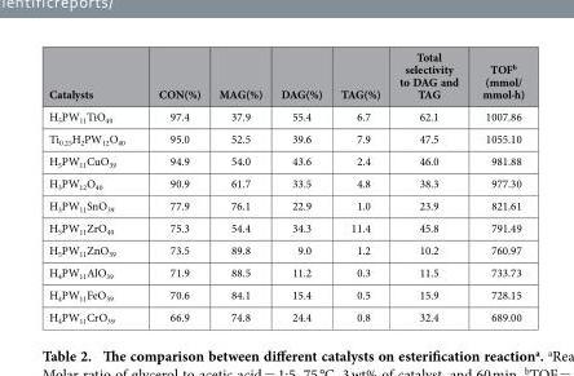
<table><thead><tr><td>Catalysts</td><td>CON(%)</td><td>MAG(%)</td><td>DAG(%)</td><td>TAG(%)</td><td>Total selectivity to DAG and TAG</td><td>TOF<sup>b</sup> (mmol/ mmol·h)</td></tr></thead><tbody><tr><td>H<sub>5</sub>PW<sub>11</sub>TiO<sub>40</sub></td><td>97.4</td><td>37.9</td><td>55.4</td><td>6.7</td><td>62.1</td><td>1007.86</td></tr><tr><td>Ti<sub>0.25</sub>H<sub>2</sub>PW<sub>12</sub>O<sub>40</sub></td><td>95.0</td><td>52.5</td><td>39.6</td><td>7.9</td><td>47.5</td><td>1055.10</td></tr><tr><td>H<sub>5</sub>PW<sub>11</sub>CuO<sub>39</sub></td><td>94.9</td><td>54.0</td><td>43.6</td><td>2.4</td><td>46.0</td><td>981.88</td></tr><tr><td>H<sub>3</sub>PW<sub>12</sub>O<sub>40</sub></td><td>90.9</td><td>61.7</td><td>33.5</td><td>4.8</td><td>38.3</td><td>977.30</td></tr><tr><td>H<sub>3</sub>PW<sub>11</sub>SnO<sub>39</sub></td><td>77.9</td><td>76.1</td><td>22.9</td><td>1.0</td><td>23.9</td><td>821.61</td></tr><tr><td>H<sub>5</sub>PW<sub>11</sub>ZrO<sub>40</sub></td><td>75.3</td><td>54.4</td><td>34.3</td><td>11.4</td><td>45.8</td><td>791.49</td></tr><tr><td>H<sub>5</sub>PW<sub>11</sub>ZnO<sub>39</sub></td><td>73.5</td><td>89.8</td><td>9.0</td><td>1.2</td><td>10.2</td><td>760.97</td></tr><tr><td>H<sub>4</sub>PW<sub>11</sub>AlO<sub>39</sub></td><td>71.9</td><td>88.5</td><td>11.2</td><td>0.3</td><td>11.5</td><td>733.73</td></tr><tr><td>H<sub>4</sub>PW<sub>11</sub>FeO<sub>39</sub></td><td>70.6</td><td>84.1</td><td>15.4</td><td>0.5</td><td>15.9</td><td>728.15</td></tr><tr><td>H<sub>4</sub>PW<sub>11</sub>CrO<sub>39</sub></td><td>66.9</td><td>74.8</td><td>24.4</td><td>0.8</td><td>32.4</td><td>689.00</td></tr></tbody></table>